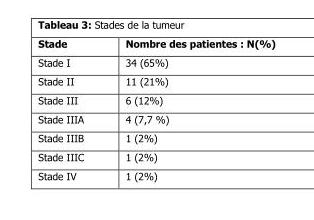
<table><thead><tr><td>Stade</td><td>Nombre des patientes : N(%)</td></tr></thead><tbody><tr><td>Stade I</td><td>34 (65%)</td></tr><tr><td>Stade II</td><td>11 (21%)</td></tr><tr><td>Stade III</td><td>6 (12%)</td></tr><tr><td>Stade IIIA</td><td>4 (7,7 %)</td></tr><tr><td>Stade IIIB</td><td>1 (2%)</td></tr><tr><td>Stade IIIC</td><td>1 (2%)</td></tr><tr><td>Stade IV</td><td>1 (2%)</td></tr></tbody></table>